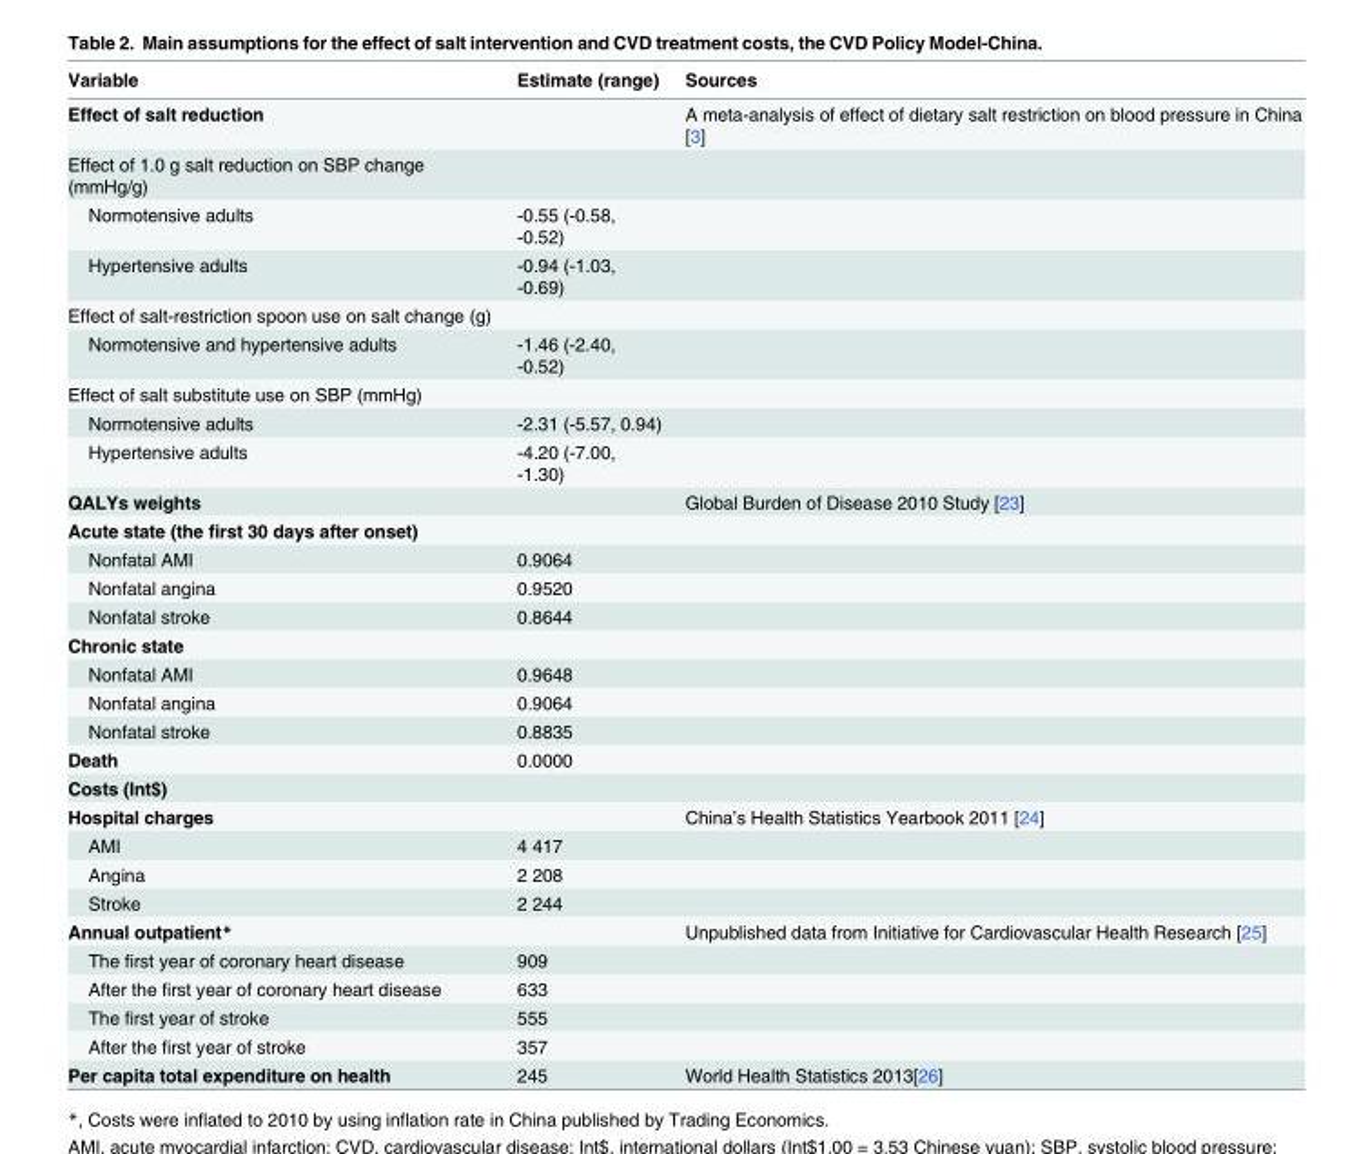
<table><thead><tr><td>Variable</td><td>Estimate (range)</td><td>Sources</td></tr></thead><tbody><tr><td>Effect of salt reduction</td><td></td><td>A meta-analysis of effect of dietary salt restriction on blood pressure in China [3]</td></tr><tr><td colspan="3">Effect of 1.0 g salt reduction on SBP change (mmHg/g)</td></tr><tr><td>Normotensive adults</td><td>-0.55 (-0.58, -0.52)</td><td></td></tr><tr><td>Hypertensive adults</td><td>-0.94 (-1.03, -0.69)</td><td></td></tr><tr><td colspan="3">Effect of salt-restriction spoon use on salt change (g)</td></tr><tr><td>Normotensive and hypertensive adults</td><td>-1.46 (-2.40, -0.52)</td><td></td></tr><tr><td colspan="3">Effect of salt substitute use on SBP (mmHg)</td></tr><tr><td>Normotensive adults</td><td>-2.31 (-5.57, 0.94)</td><td></td></tr><tr><td>Hypertensive adults</td><td>-4.20 (-7.00, -1.30)</td><td></td></tr><tr><td>QALYs weights</td><td></td><td>Global Burden of Disease 2010 Study [23]</td></tr><tr><td colspan="3">Acute state (the first 30 days after onset)</td></tr><tr><td>Nonfatal AMI</td><td>0.9064</td><td></td></tr><tr><td>Nonfatal angina</td><td>0.9520</td><td></td></tr><tr><td>Nonfatal stroke</td><td>0.8644</td><td></td></tr><tr><td colspan="3">Chronic state</td></tr><tr><td>Nonfatal AMI</td><td>0.9648</td><td></td></tr><tr><td>Nonfatal angina</td><td>0.9064</td><td></td></tr><tr><td>Nonfatal stroke</td><td>0.8835</td><td></td></tr><tr><td>Death</td><td>0.0000</td><td></td></tr><tr><td colspan="3">Costs (Int$)</td></tr><tr><td>Hospital charges</td><td></td><td>China’s Health Statistics Yearbook 2011 [24]</td></tr><tr><td>AMI</td><td>4 417</td><td></td></tr><tr><td>Angina</td><td>2 208</td><td></td></tr><tr><td>Stroke</td><td>2 244</td><td></td></tr><tr><td>Annual outpatient*</td><td></td><td>Unpublished data from Initiative for Cardiovascular Health Research [25]</td></tr><tr><td>The first year of coronary heart disease</td><td>909</td><td></td></tr><tr><td>After the first year of coronary heart disease</td><td>633</td><td></td></tr><tr><td>The first year of stroke</td><td>555</td><td></td></tr><tr><td>After the first year of stroke</td><td>357</td><td></td></tr><tr><td>Per capita total expenditure on health</td><td>245</td><td>World Health Statistics 2013[26]</td></tr></tbody></table>